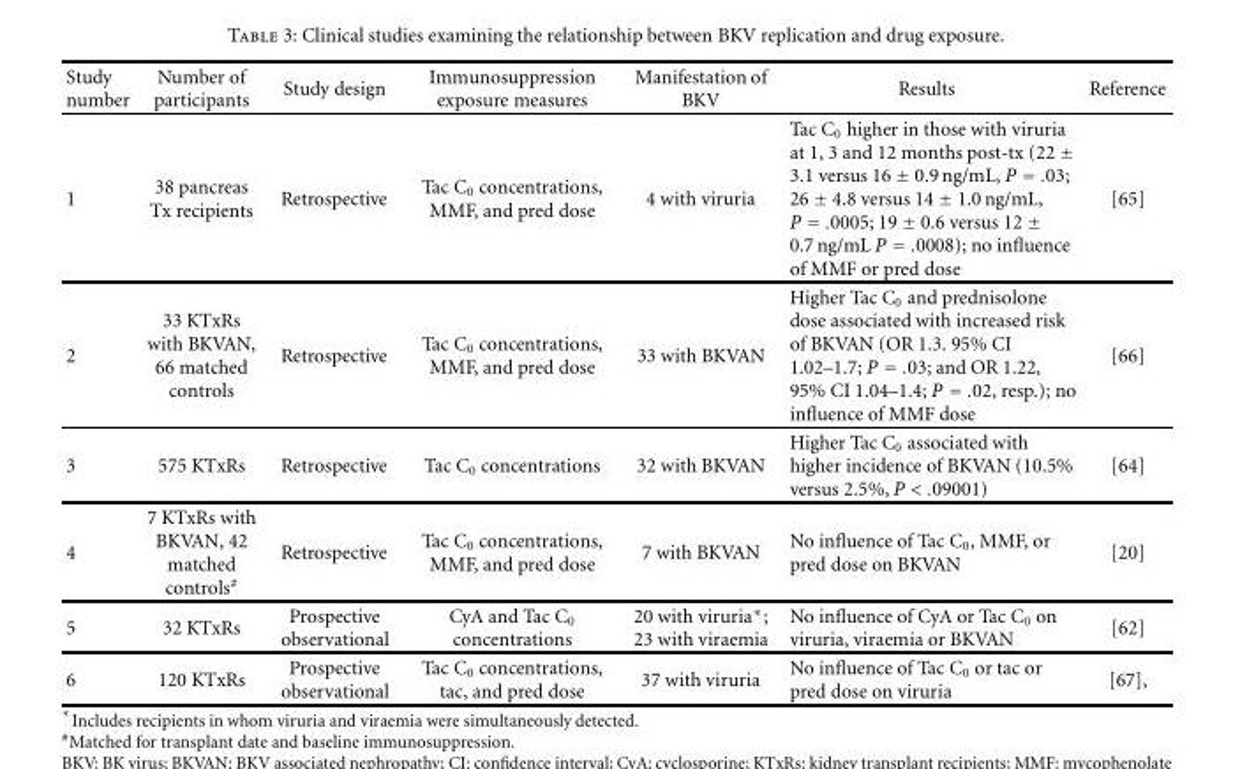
<table><thead><tr><td>Study number</td><td>Number of participants</td><td>Study design</td><td>Immunosuppression exposure measures</td><td>Manifestation of BKV</td><td>Results</td><td>Reference</td></tr></thead><tbody><tr><td>1</td><td>38 pancreas Tx recipients</td><td>Retrospective</td><td>Tac C<sub>0</sub> concentrations, MMF, and pred dose</td><td>4 with viruria</td><td>Tac C<sub>0</sub> higher in those with viruria at 1, 3 and 12 months post-tx (22 ± 3.1 versus 16 ± 0.9 ng/mL, P = .03; 26 ± 4.8 versus 14 ± 1.0 ng/mL, P = .0005; 19 ± 0.6 versus 12 ± 0.7 ng/mL P = .0008); no influence of MMF or pred dose</td><td>[65]</td></tr><tr><td>2</td><td>33 KTxRs with BKVAN, 66 matched controls</td><td>Retrospective</td><td>Tac C<sub>0</sub> concentrations, MMF, and pred dose</td><td>33 with BKVAN</td><td>Higher Tac C<sub>0</sub> and prednisolone dose associated with increased risk of BKVAN (OR 1.3. 95% CI 1.02–1.7; P = .03; and OR 1.22, 95% CI 1.04–1.4; P = .02, resp.); no influence of MMF dose</td><td>[66]</td></tr><tr><td>3</td><td>575 KTxRs</td><td>Retrospective</td><td>Tac C<sub>0</sub> concentrations</td><td>32 with BKVAN</td><td>Higher Tac C<sub>0</sub> associated with higher incidence of BKVAN (10.5% versus 2.5%, P &lt; .09001)</td><td>[64]</td></tr><tr><td>4</td><td>7 KTxRs with BKVAN, 42 matched controls<sup>#</sup></td><td>Retrospective</td><td>Tac C<sub>0</sub> concentrations, MMF, and pred dose</td><td>7 with BKVAN</td><td>No influence of Tac C<sub>0</sub>, MMF, or pred dose on BKVAN</td><td>[20]</td></tr><tr><td>5</td><td>32 KTxRs</td><td>Prospective observational</td><td>CyA and Tac C<sub>0</sub> concentrations</td><td>20 with viruria∗; 23 with viraemia</td><td>No influence of CyA or Tac C<sub>0</sub> on viruria, viraemia or BKVAN</td><td>[62]</td></tr><tr><td>6</td><td>120 KTxRs</td><td>Prospective observational</td><td>Tac C<sub>0</sub> concentrations, tac, and pred dose</td><td>37 with viruria</td><td>No influence of Tac C<sub>0</sub> or tac or pred dose on viruria</td><td>[67],</td></tr></tbody></table>